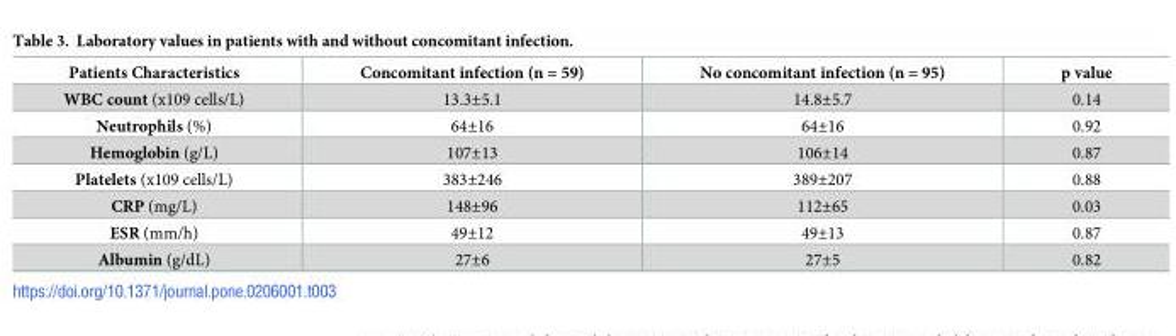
<table><thead><tr><td>Patients Characteristics</td><td>Concomitant infection (n = 59)</td><td>No concomitant infection (n = 95)</td><td>p value</td></tr></thead><tbody><tr><td>WBC count (x109 cells/L)</td><td>13.3±5.1</td><td>14.8±5.7</td><td>0.14</td></tr><tr><td>Neutrophils (%)</td><td>64±16</td><td>64±16</td><td>0.92</td></tr><tr><td>Hemoglobin (g/L)</td><td>107±13</td><td>106±14</td><td>0.87</td></tr><tr><td>Platelets (x109 cells/L)</td><td>383±246</td><td>389±207</td><td>0.88</td></tr><tr><td>CRP (mg/L)</td><td>148±96</td><td>112±65</td><td>0.03</td></tr><tr><td>ESR (mm/h)</td><td>49±12</td><td>49±13</td><td>0.87</td></tr><tr><td>Albumin (g/dL)</td><td>27±6</td><td>27±5</td><td>0.82</td></tr></tbody></table>